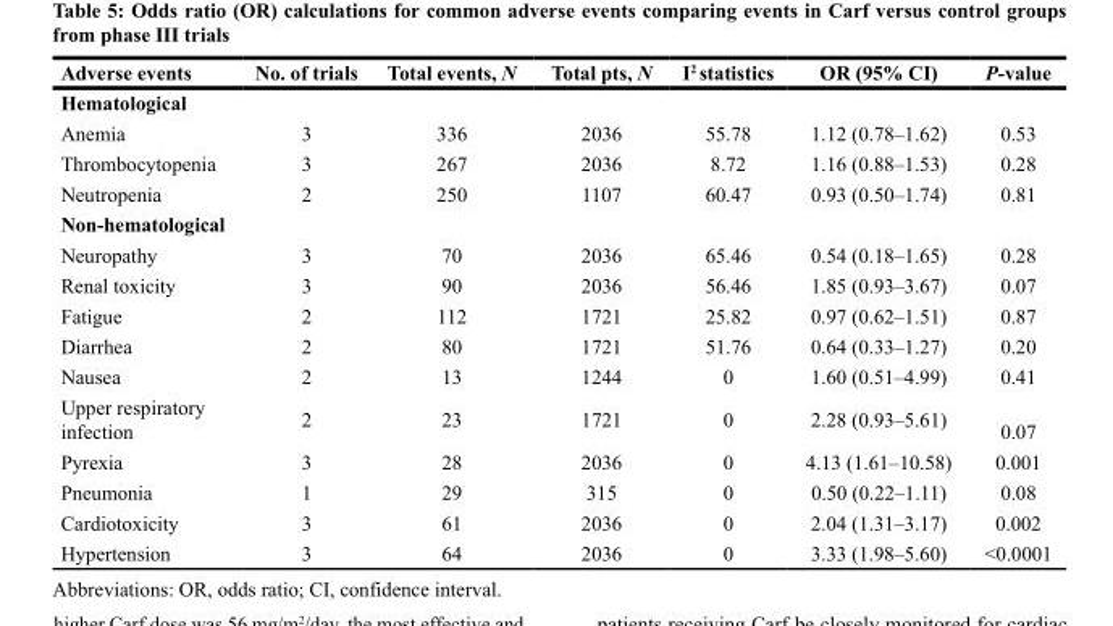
<table><thead><tr><td>Adverse events</td><td>No. of trials</td><td>Total events, N</td><td>Total pts, N</td><td>I<sup>2</sup> statistics</td><td>OR (95% CI)</td><td>P-value</td></tr></thead><tbody><tr><td colspan="7">Hematological</td></tr><tr><td>Anemia</td><td>3</td><td>336</td><td>2036</td><td>55.78</td><td>1.12 (0.78–1.62)</td><td>0.53</td></tr><tr><td>Thrombocytopenia</td><td>3</td><td>267</td><td>2036</td><td>8.72</td><td>1.16 (0.88–1.53)</td><td>0.28</td></tr><tr><td>Neutropenia</td><td>2</td><td>250</td><td>1107</td><td>60.47</td><td>0.93 (0.50–1.74)</td><td>0.81</td></tr><tr><td colspan="7">Non-hematological</td></tr><tr><td>Neuropathy</td><td>3</td><td>70</td><td>2036</td><td>65.46</td><td>0.54 (0.18–1.65)</td><td>0.28</td></tr><tr><td>Renal toxicity</td><td>3</td><td>90</td><td>2036</td><td>56.46</td><td>1.85 (0.93–3.67)</td><td>0.07</td></tr><tr><td>Fatigue</td><td>2</td><td>112</td><td>1721</td><td>25.82</td><td>0.97 (0.62–1.51)</td><td>0.87</td></tr><tr><td>Diarrhea</td><td>2</td><td>80</td><td>1721</td><td>51.76</td><td>0.64 (0.33–1.27)</td><td>0.20</td></tr><tr><td>Nausea</td><td>2</td><td>13</td><td>1244</td><td>0</td><td>1.60 (0.51–4.99)</td><td>0.41</td></tr><tr><td>Upper respiratory infection</td><td>2</td><td>23</td><td>1721</td><td>0</td><td>2.28 (0.93–5.61)</td><td>0.07</td></tr><tr><td>Pyrexia</td><td>3</td><td>28</td><td>2036</td><td>0</td><td>4.13 (1.61–10.58)</td><td>0.001</td></tr><tr><td>Pneumonia</td><td>1</td><td>29</td><td>315</td><td>0</td><td>0.50 (0.22–1.11)</td><td>0.08</td></tr><tr><td>Cardiotoxicity</td><td>3</td><td>61</td><td>2036</td><td>0</td><td>2.04 (1.31–3.17)</td><td>0.002</td></tr><tr><td>Hypertension</td><td>3</td><td>64</td><td>2036</td><td>0</td><td>3.33 (1.98–5.60)</td><td>&lt;0.0001</td></tr></tbody></table>